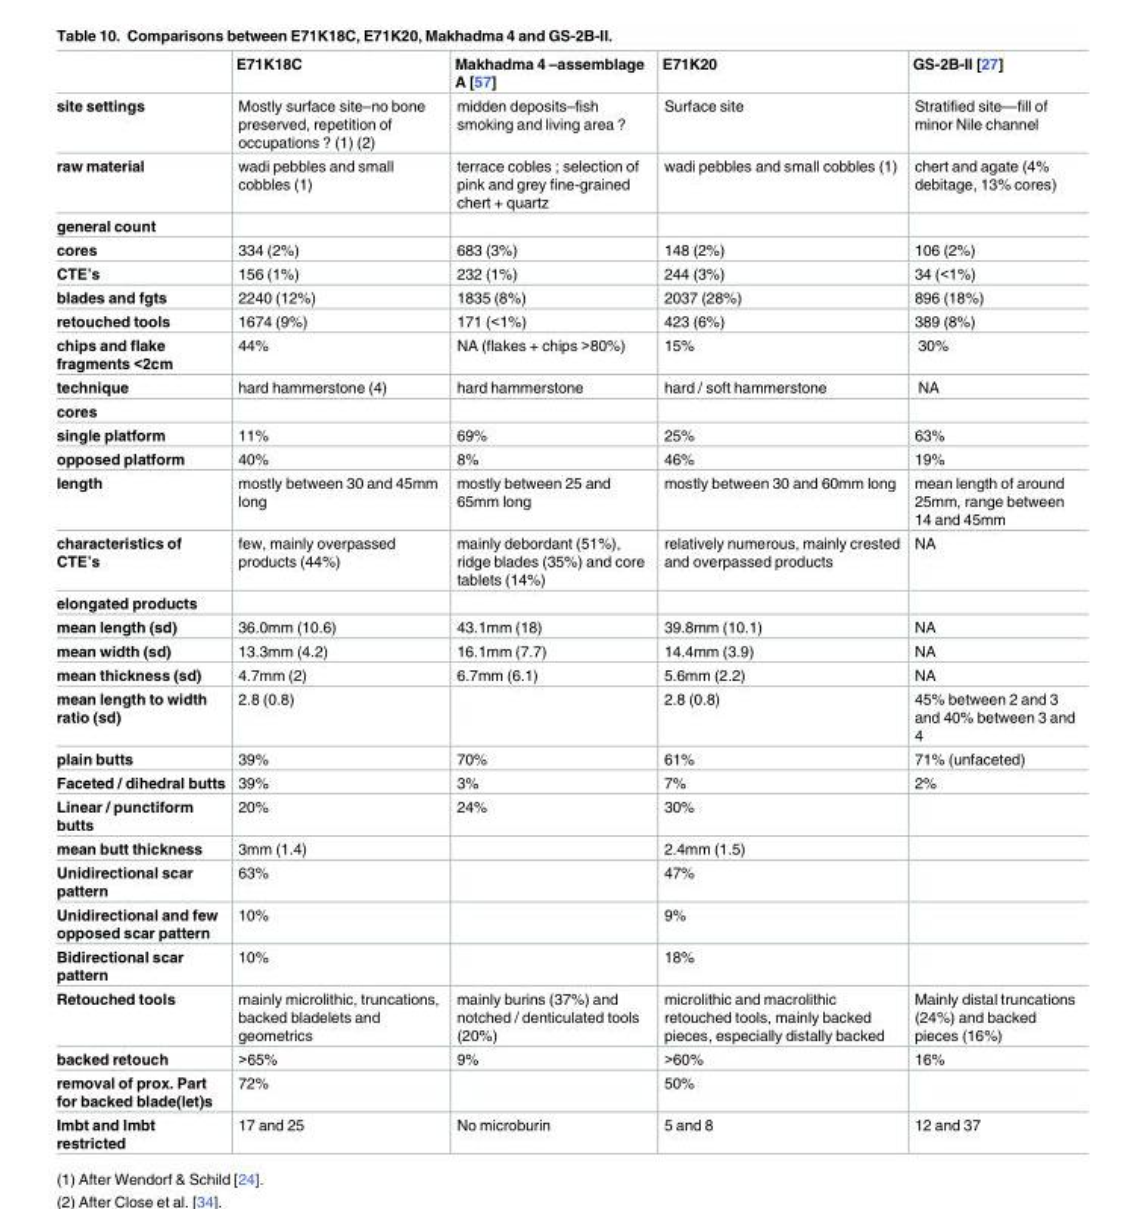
<table><thead><tr><td></td><td>E71K18C</td><td>Makhadma 4 –assemblage A [57]</td><td>E71K20</td><td>GS-2B-II [27]</td></tr></thead><tbody><tr><td>site settings</td><td>Mostly surface site–no bone preserved, repetition of occupations ? (1) (2)</td><td>midden deposits–fish smoking and living area ?</td><td>Surface site</td><td>Stratified site—fill of minor Nile channel</td></tr><tr><td>raw material</td><td>wadi pebbles and small cobbles (1)</td><td>terrace cobles ; selection of pink and grey fine-grained chert + quartz</td><td>wadi pebbles and small cobbles (1)</td><td>chert and agate (4% debitage, 13% cores)</td></tr><tr><td colspan="5">general count</td></tr><tr><td>cores</td><td>334 (2%)</td><td>683 (3%)</td><td>148 (2%)</td><td>106 (2%)</td></tr><tr><td>CTE’s</td><td>156 (1%)</td><td>232 (1%)</td><td>244 (3%)</td><td>34 (&lt;1%)</td></tr><tr><td>blades and fgts</td><td>2240 (12%)</td><td>1835 (8%)</td><td>2037 (28%)</td><td>896 (18%)</td></tr><tr><td>retouched tools</td><td>1674 (9%)</td><td>171 (&lt;1%)</td><td>423 (6%)</td><td>389 (8%)</td></tr><tr><td>chips and flake fragments &lt;2cm</td><td>44%</td><td>NA (flakes + chips &gt;80%)</td><td>15%</td><td>30%</td></tr><tr><td>technique</td><td>hard hammerstone (4)</td><td>hard hammerstone</td><td>hard / soft hammerstone</td><td>NA</td></tr><tr><td colspan="5">cores</td></tr><tr><td>single platform</td><td>11%</td><td>69%</td><td>25%</td><td>63%</td></tr><tr><td>opposed platform</td><td>40%</td><td>8%</td><td>46%</td><td>19%</td></tr><tr><td>length</td><td>mostly between 30 and 45mm long</td><td>mostly between 25 and 65mm long</td><td>mostly between 30 and 60mm long</td><td>mean length of around 25mm, range between 14 and 45mm</td></tr><tr><td>characteristics of CTE’s</td><td>few, mainly overpassed products (44%)</td><td>mainly debordant (51%), ridge blades (35%) and core tablets (14%)</td><td>relatively numerous, mainly crested and overpassed products</td><td>NA</td></tr><tr><td colspan="5">elongated products</td></tr><tr><td>mean length (sd)</td><td>36.0mm (10.6)</td><td>43.1mm (18)</td><td>39.8mm (10.1)</td><td>NA</td></tr><tr><td>mean width (sd)</td><td>13.3mm (4.2)</td><td>16.1mm (7.7)</td><td>14.4mm (3.9)</td><td>NA</td></tr><tr><td>mean thickness (sd)</td><td>4.7mm (2)</td><td>6.7mm (6.1)</td><td>5.6mm (2.2)</td><td>NA</td></tr><tr><td>mean length to width ratio (sd)</td><td>2.8 (0.8)</td><td></td><td>2.8 (0.8)</td><td>45% between 2 and 3 and 40% between 3 and 4</td></tr><tr><td>plain butts</td><td>39%</td><td>70%</td><td>61%</td><td>71% (unfaceted)</td></tr><tr><td>Faceted / dihedral butts</td><td>39%</td><td>3%</td><td>7%</td><td>2%</td></tr><tr><td>Linear / punctiform butts</td><td>20%</td><td>24%</td><td>30%</td><td></td></tr><tr><td>mean butt thickness</td><td>3mm (1.4)</td><td></td><td>2.4mm (1.5)</td><td></td></tr><tr><td>Unidirectional scar pattern</td><td>63%</td><td></td><td>47%</td><td></td></tr><tr><td>Unidirectional and few opposed scar pattern</td><td>10%</td><td></td><td>9%</td><td></td></tr><tr><td>Bidirectional scar pattern</td><td>10%</td><td></td><td>18%</td><td></td></tr><tr><td>Retouched tools</td><td>mainly microlithic, truncations, backed bladelets and geometrics</td><td>mainly burins (37%) and notched / denticulated tools (20%)</td><td>microlithic and macrolithic retouched tools, mainly backed pieces, especially distally backed</td><td>Mainly distal truncations (24%) and backed pieces (16%)</td></tr><tr><td>backed retouch</td><td>&gt;65%</td><td>9%</td><td>&gt;60%</td><td>16%</td></tr><tr><td>removal of prox. Part for backed blade(let)s</td><td>72%</td><td></td><td>50%</td><td></td></tr><tr><td>Imbt and Imbt restricted</td><td>17 and 25</td><td>No microburin</td><td>5 and 8</td><td>12 and 37</td></tr></tbody></table>